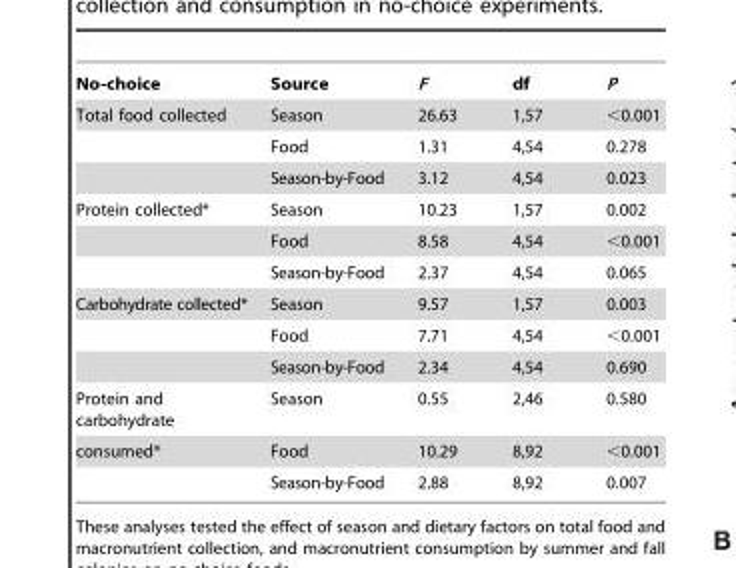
<table><thead><tr><td>No-choice</td><td>Source</td><td>F</td><td>df</td><td>P</td></tr></thead><tbody><tr><td rowspan="3">Total food collected</td><td>Season</td><td>26.63</td><td>1,57</td><td>&lt;0.001</td></tr><tr><td>Food</td><td>1.31</td><td>4,54</td><td>0.278</td></tr><tr><td>Season-by-Food</td><td>3.12</td><td>4,54</td><td>0.023</td></tr><tr><td rowspan="3">Protein collected*</td><td>Season</td><td>10.23</td><td>1,57</td><td>0.002</td></tr><tr><td>Food</td><td>8.58</td><td>4,54</td><td>&lt;0.001</td></tr><tr><td>Season-by-Food</td><td>2.37</td><td>4,54</td><td>0.065</td></tr><tr><td rowspan="3">Carbohydrate collected*</td><td>Season</td><td>9.57</td><td>1,57</td><td>0.003</td></tr><tr><td>Food</td><td>7.71</td><td>4,54</td><td>&lt;0.001</td></tr><tr><td>Season-by-Food</td><td>2.34</td><td>4,54</td><td>0.690</td></tr><tr><td>Protein and carbohydrate</td><td>Season</td><td>0.55</td><td>2,46</td><td>0.580</td></tr><tr><td rowspan="2">consumed*</td><td>Food</td><td>10.29</td><td>8,92</td><td>&lt;0.001</td></tr><tr><td>Season-by-Food</td><td>2.88</td><td>8,92</td><td>0.007</td></tr></tbody></table>